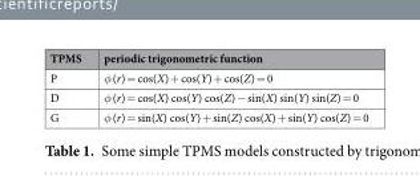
<table><thead><tr><td>TPMS</td><td>periodic trigonometric function</td></tr></thead><tbody><tr><td>P</td><td>φ (r) = cos(X) + cos(Y) + cos(Z) = 0</td></tr><tr><td>D</td><td>φ (r) = cos(X) cos(Y) cos(Z) − sin(X) sin(Y) sin(Z) = 0</td></tr><tr><td>G</td><td>φ (r) = sin(X) cos(Y) + sin(Z) cos(X) + sin(Y) cos(Z) = 0</td></tr></tbody></table>